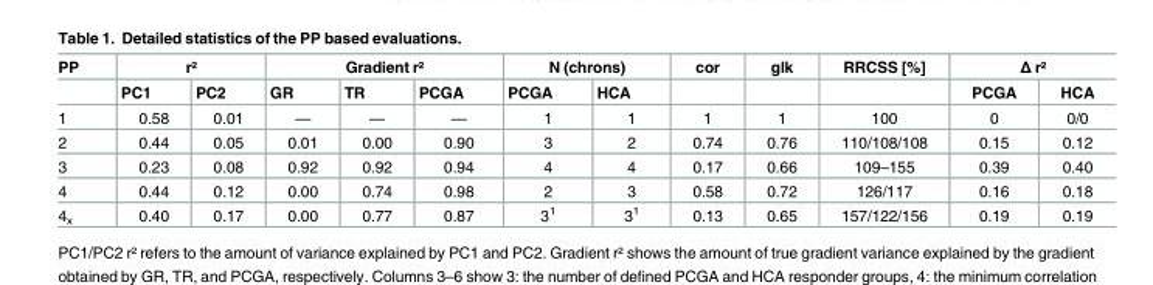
<table><thead><tr><td rowspan="2">PP</td><td colspan="2">r²</td><td colspan="3">Gradient r²</td><td colspan="2">N (chrons)</td><td rowspan="2">cor</td><td rowspan="2">glk</td><td rowspan="2">RRCSS [%]</td><td colspan="2">Δ r²</td></tr><tr><td>PC1</td><td>PC2</td><td>GR</td><td>TR</td><td>PCGA</td><td>PCGA</td><td>HCA</td><td>PCGA</td><td>HCA</td></tr></thead><tbody><tr><td>1</td><td>0.58</td><td>0.01</td><td>—</td><td>—</td><td>—</td><td>1</td><td>1</td><td>1</td><td>1</td><td>100</td><td>0</td><td>0/0</td></tr><tr><td>2</td><td>0.44</td><td>0.05</td><td>0.01</td><td>0.00</td><td>0.90</td><td>3</td><td>2</td><td>0.74</td><td>0.76</td><td>110/108/108</td><td>0.15</td><td>0.12</td></tr><tr><td>3</td><td>0.23</td><td>0.08</td><td>0.92</td><td>0.92</td><td>0.94</td><td>4</td><td>4</td><td>0.17</td><td>0.66</td><td>109–155</td><td>0.39</td><td>0.40</td></tr><tr><td>4</td><td>0.44</td><td>0.12</td><td>0.00</td><td>0.74</td><td>0.98</td><td>2</td><td>3</td><td>0.58</td><td>0.72</td><td>126/117</td><td>0.16</td><td>0.18</td></tr><tr><td>4<sub>x</sub></td><td>0.40</td><td>0.17</td><td>0.00</td><td>0.77</td><td>0.87</td><td>3<sup>1</sup></td><td>3<sup>1</sup></td><td>0.13</td><td>0.65</td><td>157/122/156</td><td>0.19</td><td>0.19</td></tr></tbody></table>